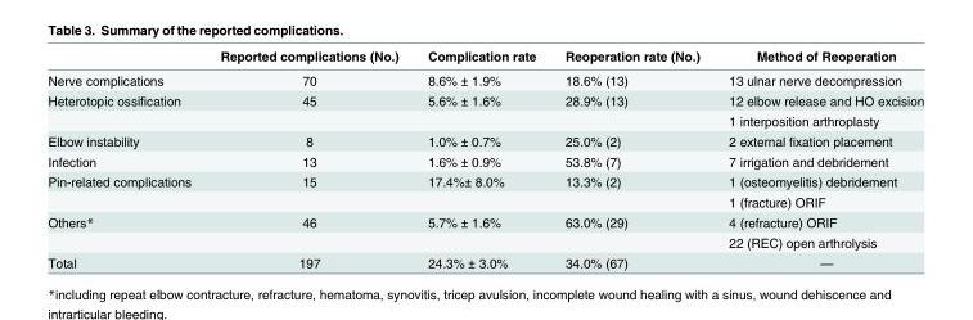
<table><thead><tr><td></td><td>Reported complications (No.)</td><td>Complication rate</td><td>Reoperation rate (No.)</td><td>Method of Reoperation</td></tr></thead><tbody><tr><td>Nerve complications</td><td>70</td><td>8.6% ± 1.9%</td><td>18.6% (13)</td><td>13 ulnar nerve decompression</td></tr><tr><td rowspan="2">Heterotopic ossification</td><td>45</td><td>5.6% ± 1.6%</td><td>28.9% (13)</td><td>12 elbow release and HO excision</td></tr><tr><td></td><td></td><td></td><td>1 interposition arthroplasty</td></tr><tr><td>Elbow instability</td><td>8</td><td>1.0% ± 0.7%</td><td>25.0% (2)</td><td>2 external fixation placement</td></tr><tr><td>Infection</td><td>13</td><td>1.6% ± 0.9%</td><td>53.8% (7)</td><td>7 irrigation and debridement</td></tr><tr><td rowspan="2">Pin-related complications</td><td>15</td><td>17.4%± 8.0%</td><td>13.3% (2)</td><td>1 (osteomyelitis) debridement</td></tr><tr><td></td><td></td><td></td><td>1 (fracture) ORIF</td></tr><tr><td rowspan="2">Others*</td><td>46</td><td>5.7% ± 1.6%</td><td>63.0% (29)</td><td>4 (refracture) ORIF</td></tr><tr><td></td><td></td><td></td><td>22 (REC) open arthrolysis</td></tr><tr><td>Total</td><td>197</td><td>24.3% ± 3.0%</td><td>34.0% (67)</td><td>—</td></tr></tbody></table>